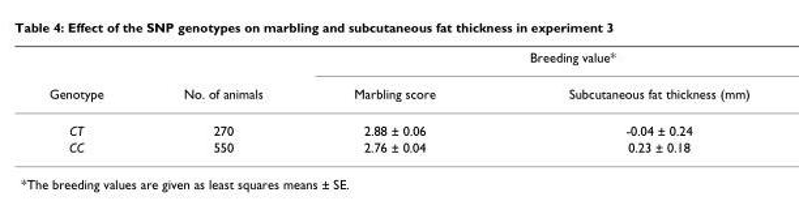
<table><thead><tr><td rowspan="2">Genotype</td><td rowspan="2">No. of animals</td><td colspan="2">Breeding value*</td></tr><tr><td>Marbling score</td><td>Subcutaneous fat thickness (mm)</td></tr></thead><tbody><tr><td>CT</td><td>270</td><td>2.88 ± 0.06</td><td>-0.04 ± 0.24</td></tr><tr><td>CC</td><td>550</td><td>2.76 ± 0.04</td><td>0.23 ± 0.18</td></tr></tbody></table>